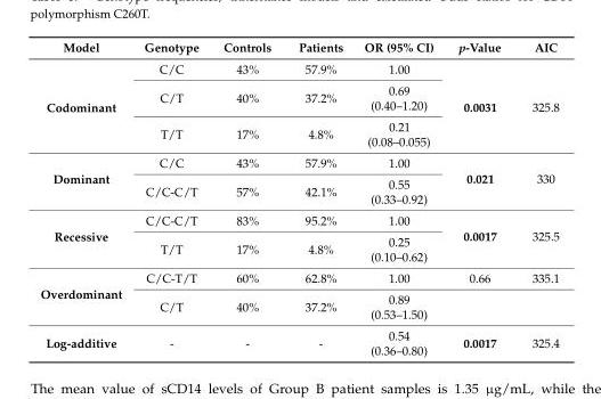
<table><thead><tr><td>Model</td><td>Genotype</td><td>Controls</td><td>Patients</td><td>OR (95% CI)</td><td>p-Value</td><td>AIC</td></tr></thead><tbody><tr><td rowspan="3">Codominant</td><td>C/C</td><td>43%</td><td>57.9%</td><td>1.00</td><td rowspan="3">0.0031</td><td rowspan="3">325.8</td></tr><tr><td>C/T</td><td>40%</td><td>37.2%</td><td>0.69 (0.40–1.20)</td></tr><tr><td>T/T</td><td>17%</td><td>4.8%</td><td>0.21 (0.08–0.055)</td></tr><tr><td rowspan="2">Dominant</td><td>C/C</td><td>43%</td><td>57.9%</td><td>1.00</td><td rowspan="2">0.021</td><td rowspan="2">330</td></tr><tr><td>C/C-C/T</td><td>57%</td><td>42.1%</td><td>0.55 (0.33–0.92)</td></tr><tr><td rowspan="2">Recessive</td><td>C/C-C/T</td><td>83%</td><td>95.2%</td><td>1.00</td><td rowspan="2">0.0017</td><td rowspan="2">325.5</td></tr><tr><td>T/T</td><td>17%</td><td>4.8%</td><td>0.25 (0.10–0.62)</td></tr><tr><td rowspan="2">Overdominant</td><td>C/C-T/T</td><td>60%</td><td>62.8%</td><td>1.00</td><td>0.66</td><td>335.1</td></tr><tr><td>C/T</td><td>40%</td><td>37.2%</td><td>0.89 (0.53–1.50)</td><td></td><td></td></tr><tr><td>Log-additive</td><td>-</td><td>-</td><td>-</td><td>0.54 (0.36–0.80)</td><td>0.0017</td><td>325.4</td></tr></tbody></table>